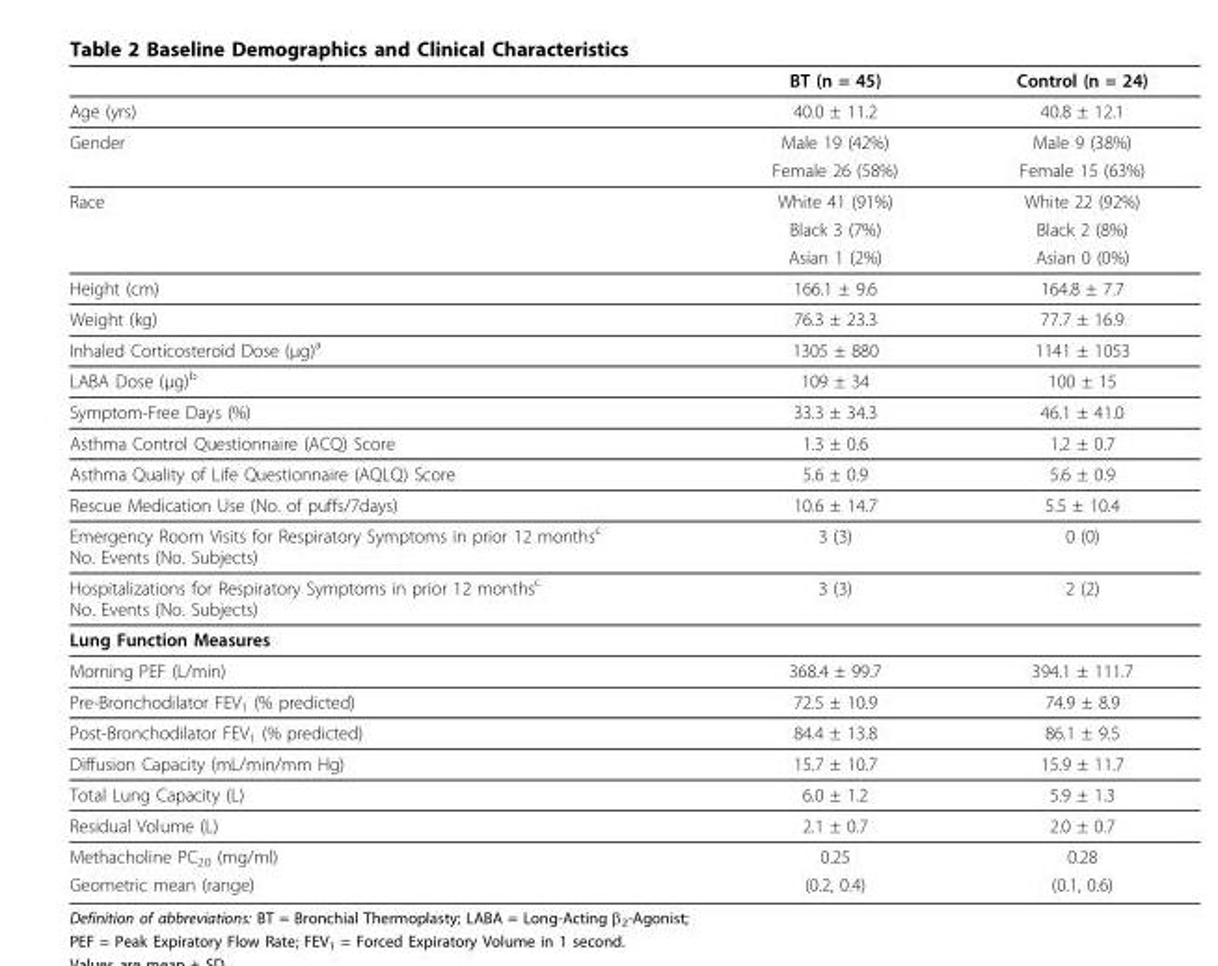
<table><thead><tr><td></td><td>BT (n = 45)</td><td>Control (n = 24)</td></tr></thead><tbody><tr><td>Age (yrs)</td><td>40.0 ± 11.2</td><td>40.8 ± 12.1</td></tr><tr><td rowspan="2">Gender</td><td>Male 19 (42%)</td><td>Male 9 (38%)</td></tr><tr><td>Female 26 (58%)</td><td>Female 15 (63%)</td></tr><tr><td rowspan="3">Race</td><td>White 41 (91%)</td><td>White 22 (92%)</td></tr><tr><td>Black 3 (7%)</td><td>Black 2 (8%)</td></tr><tr><td>Asian 1 (2%)</td><td>Asian 0 (0%)</td></tr><tr><td>Height (cm)</td><td>166.1 ± 9.6</td><td>164.8 ± 7.7</td></tr><tr><td>Weight (kg)</td><td>76.3 ± 23.3</td><td>77.7 ± 16.9</td></tr><tr><td>Inhaled Corticosteroid Dose (μg)<sup>a</sup></td><td>1305 ± 880</td><td>1141 ± 1053</td></tr><tr><td>LABA Dose (μg)<sup>b</sup></td><td>109 ± 34</td><td>100 ± 15</td></tr><tr><td>Symptom-Free Days (%)</td><td>33.3 ± 34.3</td><td>46.1 ± 41.0</td></tr><tr><td>Asthma Control Questionnaire (ACQ) Score</td><td>1.3 ± 0.6</td><td>1.2 ± 0.7</td></tr><tr><td>Asthma Quality of Life Questionnaire (AQLQ) Score</td><td>5.6 ± 0.9</td><td>5.6 ± 0.9</td></tr><tr><td>Rescue Medication Use (No. of puffs/7days)</td><td>10.6 ± 14.7</td><td>5.5 ± 10.4</td></tr><tr><td>Emergency Room Visits for Respiratory Symptoms in prior 12 months<sup>c</sup> No. Events (No. Subjects)</td><td>3 (3)</td><td>0 (0)</td></tr><tr><td>Hospitalizations for Respiratory Symptoms in prior 12 months<sup>c</sup> No. Events (No. Subjects)</td><td>3 (3)</td><td>2 (2)</td></tr><tr><td colspan="3">Lung Function Measures</td></tr><tr><td>Morning PEF (L/min)</td><td>368.4 ± 99.7</td><td>394.1 ± 111.7</td></tr><tr><td>Pre-Bronchodilator FEV<sub>1</sub> (% predicted)</td><td>72.5 ± 10.9</td><td>74.9 ± 8.9</td></tr><tr><td>Post-Bronchodilator FEV<sub>1</sub> (% predicted)</td><td>84.4 ± 13.8</td><td>86.1 ± 9.5</td></tr><tr><td>Diffusion Capacity (mL/min/mm Hg)</td><td>15.7 ± 10.7</td><td>15.9 ± 11.7</td></tr><tr><td>Total Lung Capacity (L)</td><td>6.0 ± 1.2</td><td>5.9 ± 1.3</td></tr><tr><td>Residual Volume (L)</td><td>2.1 ± 0.7</td><td>2.0 ± 0.7</td></tr><tr><td>Methacholine PC<sub>20</sub> (mg/ml)</td><td>0.25</td><td>0.28</td></tr><tr><td>Geometric mean (range)</td><td>(0.2, 0.4)</td><td>(0.1, 0.6)</td></tr></tbody></table>